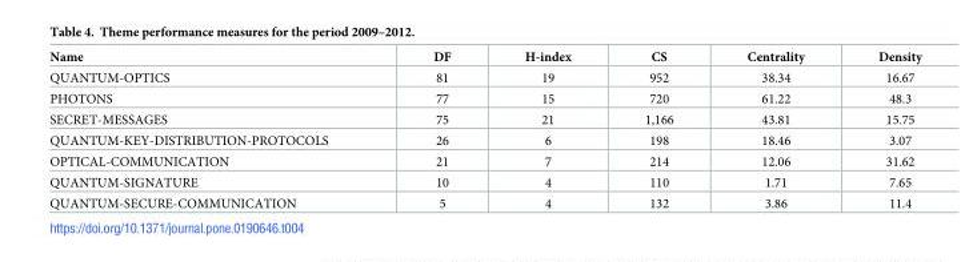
<table><thead><tr><td>Name</td><td>DF</td><td>H-index</td><td>CS</td><td>Centrality</td><td>Density</td></tr></thead><tbody><tr><td>QUANTUM-OPTICS</td><td>81</td><td>19</td><td>952</td><td>38.34</td><td>16.67</td></tr><tr><td>PHOTONS</td><td>77</td><td>15</td><td>720</td><td>61.22</td><td>48.3</td></tr><tr><td>SECRET-MESSAGES</td><td>75</td><td>21</td><td>1,166</td><td>43.81</td><td>15.75</td></tr><tr><td>QUANTUM-KEY-DISTRIBUTION-PROTOCOLS</td><td>26</td><td>6</td><td>198</td><td>18.46</td><td>3.07</td></tr><tr><td>OPTICAL-COMMUNICATION</td><td>21</td><td>7</td><td>214</td><td>12.06</td><td>31.62</td></tr><tr><td>QUANTUM-SIGNATURE</td><td>10</td><td>4</td><td>110</td><td>1.71</td><td>7.65</td></tr><tr><td>QUANTUM-SECURE-COMMUNICATION</td><td>5</td><td>4</td><td>132</td><td>3.86</td><td>11.4</td></tr></tbody></table>